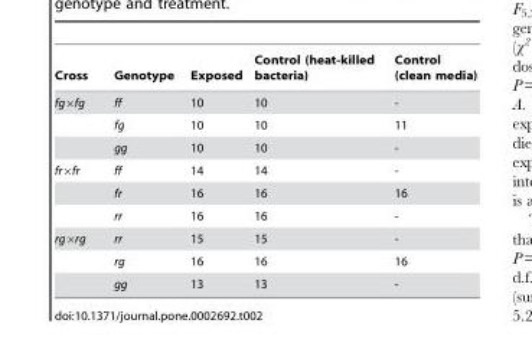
<table><thead><tr><td>Cross</td><td>Genotype</td><td>Exposed</td><td>Control (heat-killed bacteria)</td><td>Control (clean media)</td></tr></thead><tbody><tr><td rowspan="3">fg×fg</td><td>ff</td><td>10</td><td>10</td><td>-</td></tr><tr><td>fg</td><td>10</td><td>10</td><td>11</td></tr><tr><td>gg</td><td>10</td><td>10</td><td>-</td></tr><tr><td rowspan="3">fr×fr</td><td>ff</td><td>14</td><td>14</td><td>-</td></tr><tr><td>fr</td><td>16</td><td>16</td><td>16</td></tr><tr><td>rr</td><td>16</td><td>16</td><td>-</td></tr><tr><td rowspan="3">rg×rg</td><td>rr</td><td>15</td><td>15</td><td>-</td></tr><tr><td>rg</td><td>16</td><td>16</td><td>16</td></tr><tr><td>gg</td><td>13</td><td>13</td><td>-</td></tr></tbody></table>